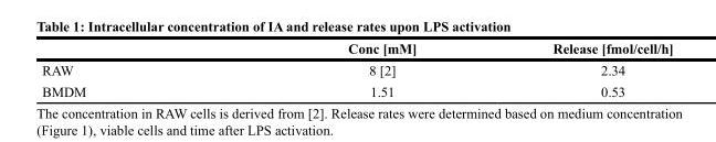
<table><thead><tr><td></td><td>Conc [mM]</td><td>Release [fmol/cell/h]</td></tr></thead><tbody><tr><td>RAW</td><td>8 [2]</td><td>2.34</td></tr><tr><td>BMDM</td><td>1.51</td><td>0.53</td></tr></tbody></table>